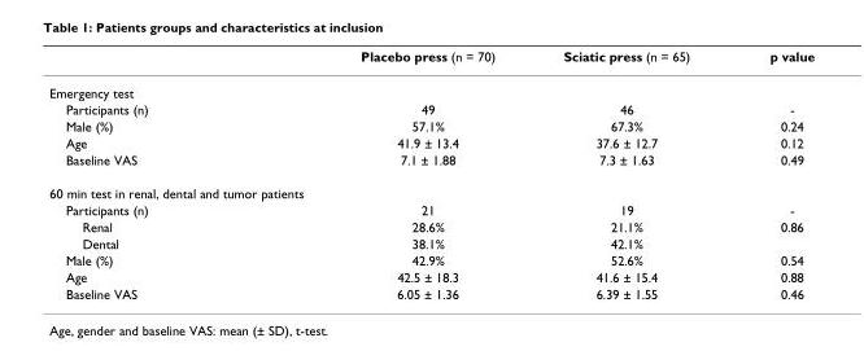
<table><thead><tr><td></td><td>Placebo press (n = 70)</td><td>Sciatic press (n = 65)</td><td>p value</td></tr></thead><tbody><tr><td colspan="4">Emergency test</td></tr><tr><td>Participants (n)</td><td>49</td><td>46</td><td>-</td></tr><tr><td>Male (%)</td><td>57.1%</td><td>67.3%</td><td>0.24</td></tr><tr><td>Age</td><td>41.9 ± 13.4</td><td>37.6 ± 12.7</td><td>0.12</td></tr><tr><td>Baseline VAS</td><td>7.1 ± 1.88</td><td>7.3 ± 1.63</td><td>0.49</td></tr><tr><td colspan="4">60 min test in renal, dental and tumor patients</td></tr><tr><td>Participants (n)</td><td>21</td><td>19</td><td>-</td></tr><tr><td>Renal</td><td>28.6%</td><td>21.1%</td><td>0.86</td></tr><tr><td>Dental</td><td>38.1%</td><td>42.1%</td><td></td></tr><tr><td>Male (%)</td><td>42.9%</td><td>52.6%</td><td>0.54</td></tr><tr><td>Age</td><td>42.5 ± 18.3</td><td>41.6 ± 15.4</td><td>0.88</td></tr><tr><td>Baseline VAS</td><td>6.05 ± 1.36</td><td>6.39 ± 1.55</td><td>0.46</td></tr></tbody></table>